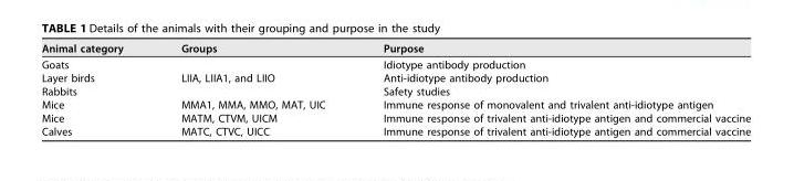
<table><thead><tr><td>Animal category</td><td>Groups</td><td>Purpose</td></tr></thead><tbody><tr><td>Goats</td><td></td><td>Idiotype antibody production</td></tr><tr><td>Layer birds</td><td>LIIA, LIIA1, and LIIO</td><td>Anti-idiotype antibody production</td></tr><tr><td>Rabbits</td><td></td><td>Safety studies</td></tr><tr><td>Mice</td><td>MMA1, MMA, MMO, MAT, UIC</td><td>Immune response of monovalent and trivalent anti-idiotype antigen</td></tr><tr><td>Mice</td><td>MATM, CTVM, UICM</td><td>Immune response of trivalent anti-idiotype antigen and commercial vaccine</td></tr><tr><td>Calves</td><td>MATC, CTVC, UICC</td><td>Immune response of trivalent anti-idiotype antigen and commercial vaccine</td></tr></tbody></table>